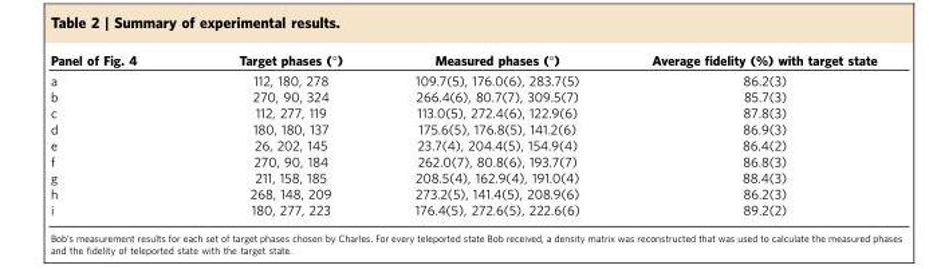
<table><thead><tr><td>Panel of Fig. 4</td><td>Target phases (°)</td><td>Measured phases (°)</td><td>Average fidelity (%) with target state</td></tr></thead><tbody><tr><td>a</td><td>112, 180, 278</td><td>109.7(5), 176.0(6), 283.7(5)</td><td>86.2(3)</td></tr><tr><td>b</td><td>270, 90, 324</td><td>266.4(6), 80.7(7), 309.5(7)</td><td>85.7(3)</td></tr><tr><td>c</td><td>112, 277, 119</td><td>113.0(5), 272.4(6), 122.9(6)</td><td>87.8(3)</td></tr><tr><td>d</td><td>180, 180, 137</td><td>175.6(5), 176.8(5), 141.2(6)</td><td>86.9(3)</td></tr><tr><td>e</td><td>26, 202, 145</td><td>23.7(4), 204.4(5), 154.9(4)</td><td>86.4(2)</td></tr><tr><td>f</td><td>270, 90, 184</td><td>262.0(7), 80.8(6), 193.7(7)</td><td>86.8(3)</td></tr><tr><td>g</td><td>211, 158, 185</td><td>208.5(4), 162.9(4), 191.0(4)</td><td>88.4(3)</td></tr><tr><td>h</td><td>268, 148, 209</td><td>273.2(5), 141.4(5), 208.9(6)</td><td>86.2(3)</td></tr><tr><td>i</td><td>180, 277, 223</td><td>176.4(5), 272.6(5), 222.6(6)</td><td>89.2(2)</td></tr></tbody></table>